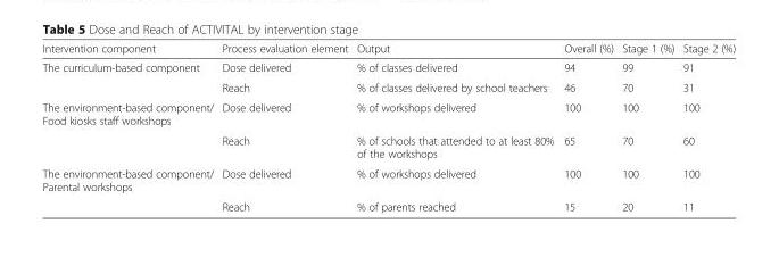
<table><thead><tr><td>Intervention component</td><td>Process evaluation element</td><td>Output</td><td>Overall (%)</td><td>Stage 1 (%)</td><td>Stage 2 (%)</td></tr></thead><tbody><tr><td rowspan="2">The curriculum-based component</td><td>Dose delivered</td><td>% of classes delivered</td><td>94</td><td>99</td><td>91</td></tr><tr><td>Reach</td><td>% of classes delivered by school teachers</td><td>46</td><td>70</td><td>31</td></tr><tr><td rowspan="2">The environment-based component/ Food kiosks staff workshops</td><td>Dose delivered</td><td>% of workshops delivered</td><td>100</td><td>100</td><td>100</td></tr><tr><td>Reach</td><td>% of schools that attended to at least 80% of the workshops</td><td>65</td><td>70</td><td>60</td></tr><tr><td rowspan="2">The environment-based component/ Parental workshops</td><td>Dose delivered</td><td>% of workshops delivered</td><td>100</td><td>100</td><td>100</td></tr><tr><td>Reach</td><td>% of parents reached</td><td>15</td><td>20</td><td>11</td></tr></tbody></table>